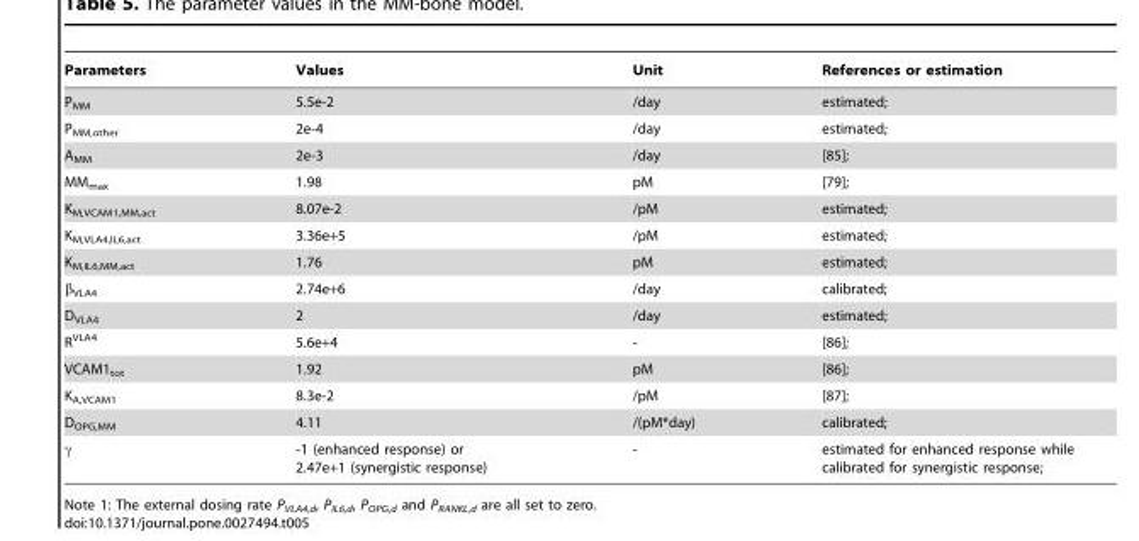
<table><thead><tr><td>Parameters</td><td>Values</td><td>Unit</td><td>References or estimation</td></tr></thead><tbody><tr><td>P<sub>MM</sub></td><td>5.5e-2</td><td>/day</td><td>estimated;</td></tr><tr><td>P<sub>MM,other</sub></td><td>2e-4</td><td>/day</td><td>estimated;</td></tr><tr><td>A<sub>MM</sub></td><td>2e-3</td><td>/day</td><td>[85];</td></tr><tr><td>MM<sub>max</sub></td><td>1.98</td><td>pM</td><td>[79];</td></tr><tr><td>K<sub>M,VCAM1,MM,act</sub></td><td>8.07e-2</td><td>/pM</td><td>estimated;</td></tr><tr><td>K<sub>M,VLA4,IL6,act</sub></td><td>3.36e+5</td><td>/pM</td><td>estimated;</td></tr><tr><td>K<sub>M,IL6,MM,act</sub></td><td>1.76</td><td>pM</td><td>estimated;</td></tr><tr><td>β<sub>VLA4</sub></td><td>2.74e+6</td><td>/day</td><td>calibrated;</td></tr><tr><td>D<sub>VLA4</sub></td><td>2</td><td>/day</td><td>estimated;</td></tr><tr><td>R<sup>VLA4</sup></td><td>5.6e+4</td><td>-</td><td>[86];</td></tr><tr><td>VCAM1<sub>tot</sub></td><td>1.92</td><td>pM</td><td>[86];</td></tr><tr><td>K<sub>A,VCAM1</sub></td><td>8.3e-2</td><td>/pM</td><td>[87];</td></tr><tr><td>D<sub>OPG,MM</sub></td><td>4.11</td><td>/(pM*day)</td><td>calibrated;</td></tr><tr><td>γ</td><td>-1 (enhanced response) or 2.47e+1 (synergistic response)</td><td>-</td><td>estimated for enhanced response while calibrated for synergistic response;</td></tr></tbody></table>